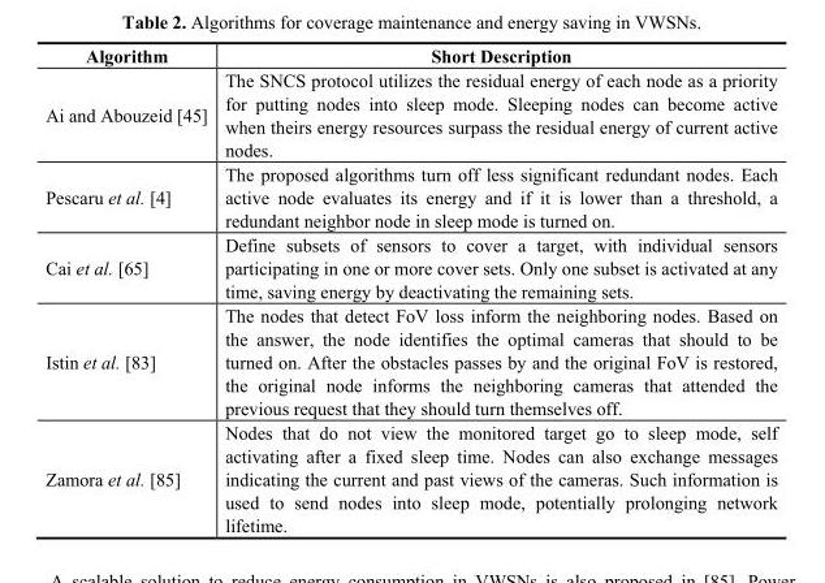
<table><thead><tr><td>Algorithm</td><td>Short Description</td></tr></thead><tbody><tr><td>Ai and Abouzeid [45]</td><td>The SNCS protocol utilizes the residual energy of each node as a priority for putting nodes into sleep mode. Sleeping nodes can become active when theirs energy resources surpass the residual energy of current active nodes.</td></tr><tr><td>Pescaru et al. [4]</td><td>The proposed algorithms turn off less significant redundant nodes. Each active node evaluates its energy and if it is lower than a threshold, a redundant neighbor node in sleep mode is turned on.</td></tr><tr><td>Cai et al. [65]</td><td>Define subsets of sensors to cover a target, with individual sensors participating in one or more cover sets. Only one subset is activated at any time, saving energy by deactivating the remaining sets.</td></tr><tr><td>Istin et al. [83]</td><td>The nodes that detect FoV loss inform the neighboring nodes. Based on the answer, the node identifies the optimal cameras that should to be turned on. After the obstacles passes by and the original FoV is restored, the original node informs the neighboring cameras that attended the previous request that they should turn themselves off.</td></tr><tr><td>Zamora et al. [85]</td><td>Nodes that do not view the monitored target go to sleep mode, self activating after a fixed sleep time. Nodes can also exchange messages indicating the current and past views of the cameras. Such information is used to send nodes into sleep mode, potentially prolonging network lifetime.</td></tr></tbody></table>